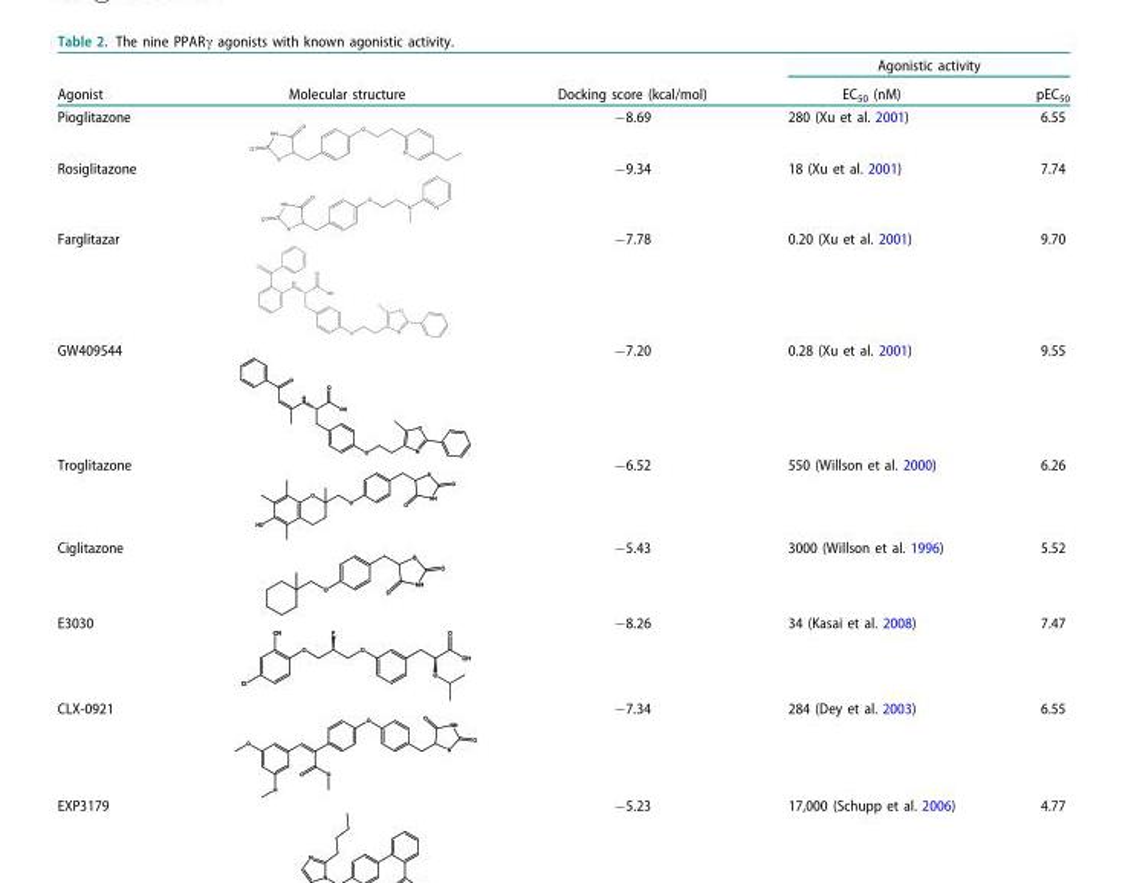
<table><thead><tr><td rowspan="2">Agonist</td><td rowspan="2">Molecular structure</td><td rowspan="2">Docking score (kcal/mol)</td><td colspan="2">Agonistic activity</td></tr><tr><td>EC<sub>50</sub> (nM)</td><td>pEC<sub>50</sub></td></tr></thead><tbody><tr><td>Pioglitazone</td><td></td><td>−8.69</td><td>280 (Xu et al. 2001)</td><td>6.55</td></tr><tr><td>Rosiglitazone</td><td></td><td>−9.34</td><td>18 (Xu et al. 2001)</td><td>7.74</td></tr><tr><td>Farglitazar</td><td></td><td>−7.78</td><td>0.20 (Xu et al. 2001)</td><td>9.70</td></tr><tr><td>GW409544</td><td></td><td>−7.20</td><td>0.28 (Xu et al. 2001)</td><td>9.55</td></tr><tr><td>Troglitazone</td><td></td><td>−6.52</td><td>550 (Willson et al. 2000)</td><td>6.26</td></tr><tr><td>Ciglitazone</td><td></td><td>−5.43</td><td>3000 (Willson et al. 1996)</td><td>5.52</td></tr><tr><td>E3030</td><td></td><td>−8.26</td><td>34 (Kasai et al. 2008)</td><td>7.47</td></tr><tr><td>CLX-0921</td><td></td><td>−7.34</td><td>284 (Dey et al. 2003)</td><td>6.55</td></tr><tr><td>EXP3179</td><td></td><td>−5.23</td><td>17,000 (Schupp et al. 2006)</td><td>4.77</td></tr></tbody></table>